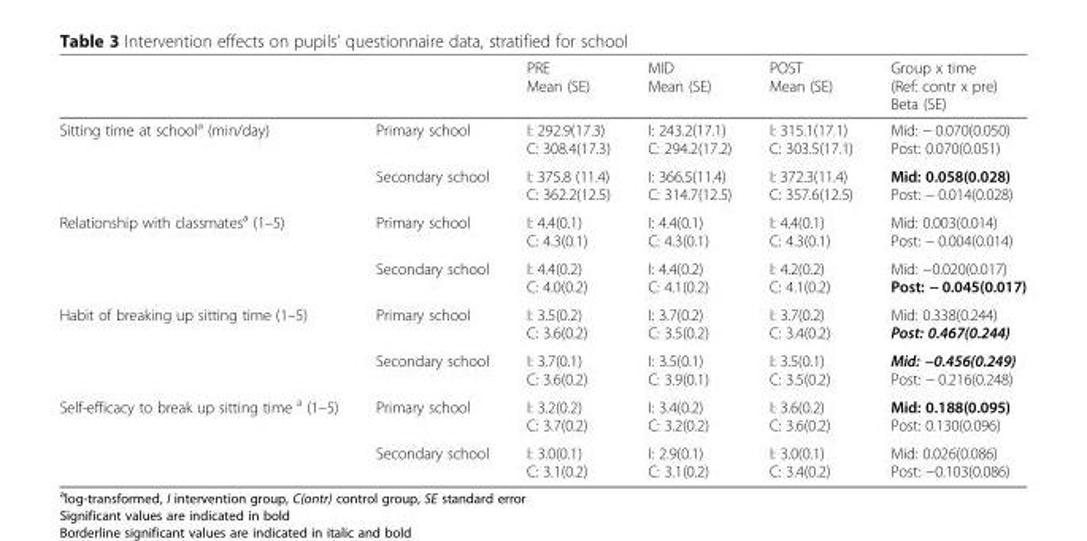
<table><thead><tr><td></td><td></td><td>PRE Mean (SE)</td><td>MID Mean (SE)</td><td>POST Mean (SE)</td><td>Group x time (Ref: contr x pre) Beta (SE)</td></tr></thead><tbody><tr><td rowspan="2">Sitting time at school<sup>a</sup> (min/day)</td><td>Primary school</td><td>I: 292.9(17.3) C: 308.4(17.3)</td><td>I: 243.2(17.1) C: 294.2(17.2)</td><td>I: 315.1(17.1) C: 303.5(17.1)</td><td>Mid: − 0.070(0.050) Post: 0.070(0.051)</td></tr><tr><td>Secondary school</td><td>I: 375.8 (11.4) C: 362.2(12.5)</td><td>I: 366.5(11.4) C: 314.7(12.5)</td><td>I: 372.3(11.4) C: 357.6(12.5)</td><td>Mid: 0.058(0.028) Post: − 0.014(0.028)</td></tr><tr><td rowspan="2">Relationship with classmates<sup>a</sup> (1–5)</td><td>Primary school</td><td>I: 4.4(0.1) C: 4.3(0.1)</td><td>I: 4.4(0.1) C: 4.3(0.1)</td><td>I: 4.4(0.1) C: 4.3(0.1)</td><td>Mid: 0.003(0.014) Post: − 0.004(0.014)</td></tr><tr><td>Secondary school</td><td>I: 4.4(0.2) C: 4.0(0.2)</td><td>I: 4.4(0.2) C: 4.1(0.2)</td><td>I: 4.2(0.2) C: 4.1(0.2)</td><td>Mid: −0.020(0.017) Post: − 0.045(0.017)</td></tr><tr><td rowspan="2">Habit of breaking up sitting time (1–5)</td><td>Primary school</td><td>I: 3.5(0.2) C: 3.6(0.2)</td><td>I: 3.7(0.2) C: 3.5(0.2)</td><td>I: 3.7(0.2) C: 3.4(0.2)</td><td>Mid: 0.338(0.244) Post: 0.467(0.244)</td></tr><tr><td>Secondary school</td><td>I: 3.7(0.1) C: 3.6(0.2)</td><td>I: 3.5(0.1) C: 3.9(0.1)</td><td>I: 3.5(0.1) C: 3.5(0.2)</td><td>Mid: −0.456(0.249) Post: − 0.216(0.248)</td></tr><tr><td rowspan="2">Self-efficacy to break up sitting time <sup>a</sup> (1–5)</td><td>Primary school</td><td>I: 3.2(0.2) C: 3.7(0.2)</td><td>I: 3.4(0.2) C: 3.2(0.2)</td><td>I: 3.6(0.2) C: 3.6(0.2)</td><td>Mid: 0.188(0.095) Post: 0.130(0.096)</td></tr><tr><td>Secondary school</td><td>I: 3.0(0.1) C: 3.1(0.2)</td><td>I: 2.9(0.1) C: 3.1(0.2)</td><td>I: 3.0(0.1) C: 3.4(0.2)</td><td>Mid: 0.026(0.086) Post: −0.103(0.086)</td></tr></tbody></table>